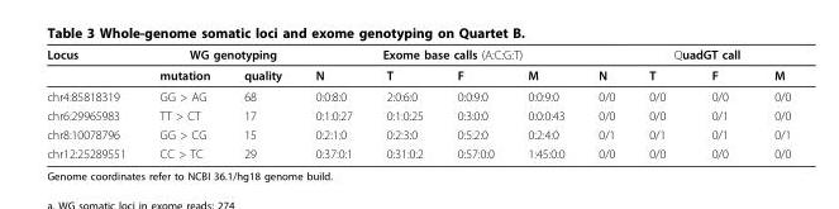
<table><thead><tr><td rowspan="2">Locus</td><td colspan="2">WG genotyping</td><td colspan="4">Exome base calls (A:C:G:T)</td><td rowspan="2">N</td><td colspan="2">QuadGT call</td><td rowspan="2">M</td></tr><tr><td>mutation</td><td>quality</td><td>N</td><td>T</td><td>F</td><td>M</td><td>T</td><td>F</td></tr></thead><tbody><tr><td>chr4:85818319</td><td>GG &gt; AG</td><td>68</td><td>0:0:8:0</td><td>2:0:6:0</td><td>0:0:9:0</td><td>0:0:9:0</td><td>0/0</td><td>0/0</td><td>0/0</td><td>0/0</td></tr><tr><td>chr6:29965983</td><td>TT &gt; CT</td><td>17</td><td>0:1:0:27</td><td>0:1:0:25</td><td>0:3:0:0</td><td>0:0:0:43</td><td>0/0</td><td>0/0</td><td>0/1</td><td>0/0</td></tr><tr><td>chr8:10078796</td><td>GG &gt; CG</td><td>15</td><td>0:2:1:0</td><td>0:2:3:0</td><td>0:5:2:0</td><td>0:2:4:0</td><td>0/1</td><td>0/1</td><td>0/1</td><td>0/1</td></tr><tr><td>chr12:25289551</td><td>CC &gt; TC</td><td>29</td><td>0:37:0:1</td><td>0:31:0:2</td><td>0:57:0:0</td><td>1:45:0:0</td><td>0/0</td><td>0/0</td><td>0/0</td><td>0/0</td></tr></tbody></table>